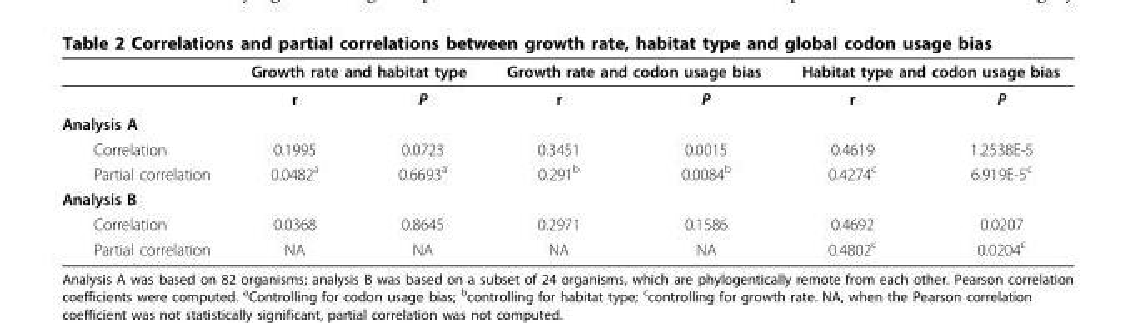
<table><thead><tr><td rowspan="2"></td><td colspan="2">Growth rate and habitat type</td><td colspan="2">Growth rate and codon usage bias</td><td colspan="2">Habitat type and codon usage bias</td></tr><tr><td>r</td><td>P</td><td>r</td><td>P</td><td>r</td><td>P</td></tr></thead><tbody><tr><td colspan="7">Analysis A</td></tr><tr><td>Correlation</td><td>0.1995</td><td>0.0723</td><td>0.3451</td><td>0.0015</td><td>0.4619</td><td>1.2538E-5</td></tr><tr><td>Partial correlation</td><td>0.0482<sup>a</sup></td><td>0.6693<sup>a</sup></td><td>0.291<sup>b</sup></td><td>0.0084<sup>b</sup></td><td>0.4274<sup>c</sup></td><td>6.919E-5<sup>c</sup></td></tr><tr><td colspan="7">Analysis B</td></tr><tr><td>Correlation</td><td>0.0368</td><td>0.8645</td><td>0.2971</td><td>0.1586</td><td>0.4692</td><td>0.0207</td></tr><tr><td>Partial correlation</td><td>NA</td><td>NA</td><td>NA</td><td>NA</td><td>0.4802<sup>c</sup></td><td>0.0204<sup>c</sup></td></tr></tbody></table>